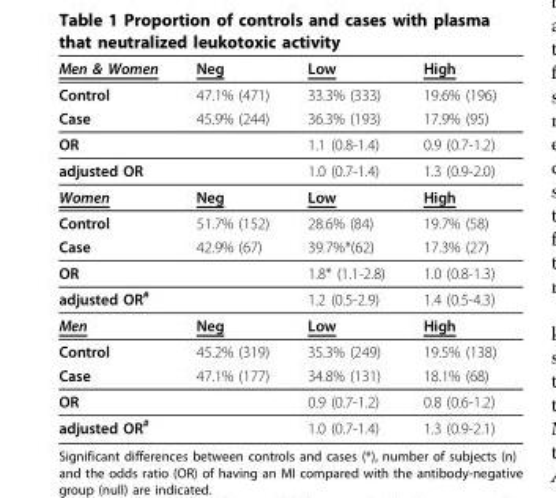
<table><thead><tr><td>Men &amp; Women</td><td>Neg</td><td>Low</td><td>High</td></tr></thead><tbody><tr><td>Control</td><td>47.1% (471)</td><td>33.3% (333)</td><td>19.6% (196)</td></tr><tr><td>Case</td><td>45.9% (244)</td><td>36.3% (193)</td><td>17.9% (95)</td></tr><tr><td>OR</td><td></td><td>1.1 (0.8-1.4)</td><td>0.9 (0.7-1.2)</td></tr><tr><td>adjusted OR</td><td></td><td>1.0 (0.7-1.4)</td><td>1.3 (0.9-2.0)</td></tr><tr><td>Women</td><td>Neg</td><td>Low</td><td>High</td></tr><tr><td>Control</td><td>51.7% (152)</td><td>28.6% (84)</td><td>19.7% (58)</td></tr><tr><td>Case</td><td>42.9% (67)</td><td>39.7%*(62)</td><td>17.3% (27)</td></tr><tr><td>OR</td><td></td><td>1.8* (1.1-2.8)</td><td>1.0 (0.8-1.3)</td></tr><tr><td>adjusted OR<sup>#</sup></td><td></td><td>1.2 (0.5-2.9)</td><td>1.4 (0.5-4.3)</td></tr><tr><td>Men</td><td>Neg</td><td>Low</td><td>High</td></tr><tr><td>Control</td><td>45.2% (319)</td><td>35.3% (249)</td><td>19.5% (138)</td></tr><tr><td>Case</td><td>47.1% (177)</td><td>34.8% (131)</td><td>18.1% (68)</td></tr><tr><td>OR</td><td></td><td>0.9 (0.7-1.2)</td><td>0.8 (0.6-1.2)</td></tr><tr><td>adjusted OR<sup>#</sup></td><td></td><td>1.0 (0.7-1.4)</td><td>1.3 (0.9-2.1)</td></tr></tbody></table>